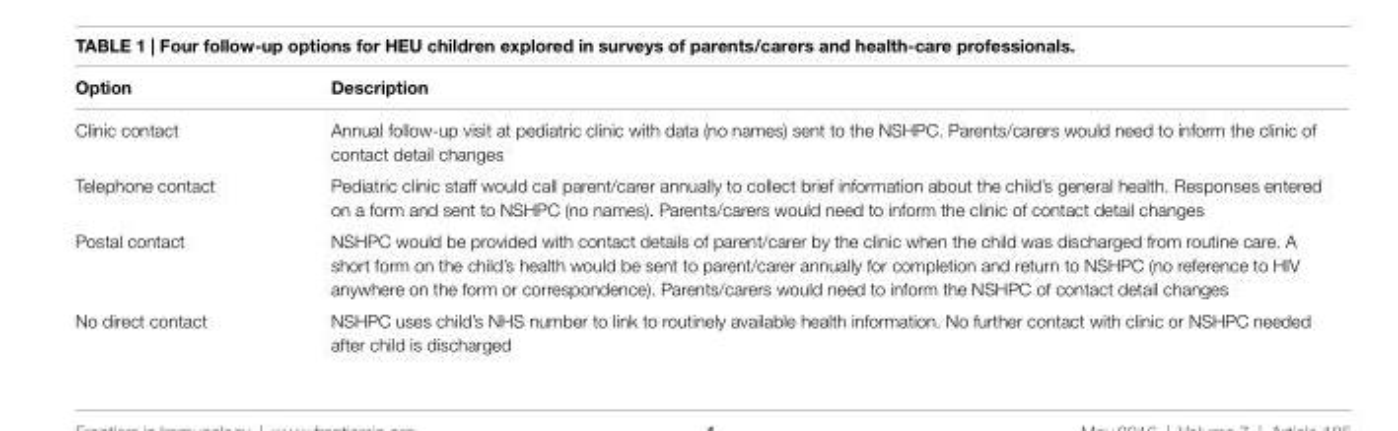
<table><thead><tr><td>Option</td><td>Description</td></tr></thead><tbody><tr><td>Clinic contact</td><td>Annual follow-up visit at pediatric clinic with data (no names) sent to the NSHPC. Parents/carers would need to inform the clinic of contact detail changes</td></tr><tr><td>Telephone contact</td><td>Pediatric clinic staff would call parent/carer annually to collect brief information about the child’s general health. Responses entered on a form and sent to NSHPC (no names). Parents/carers would need to inform the clinic of contact detail changes</td></tr><tr><td>Postal contact</td><td>NSHPC would be provided with contact details of parent/carer by the clinic when the child was discharged from routine care. A short form on the child’s health would be sent to parent/carer annually for completion and return to NSHPC (no reference to HIV anywhere on the form or correspondence). Parents/carers would need to inform the NSHPC of contact detail changes</td></tr><tr><td>No direct contact</td><td>NSHPC uses child’s NHS number to link to routinely available health information. No further contact with clinic or NSHPC needed after child is discharged</td></tr></tbody></table>